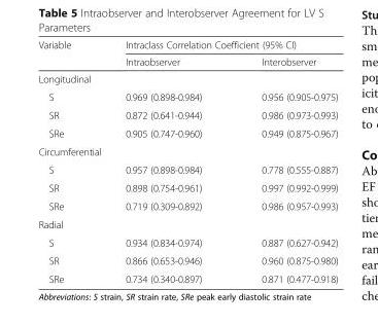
<table><thead><tr><td rowspan="2">Variable</td><td colspan="2">Intraclass Correlation Coefficient (95% CI)</td></tr><tr><td>Intraobserver</td><td>Interobserver</td></tr></thead><tbody><tr><td colspan="3">Longitudinal</td></tr><tr><td>S</td><td>0.969 (0.898-0.984)</td><td>0.956 (0.905-0.975)</td></tr><tr><td>SR</td><td>0.872 (0.641-0.944)</td><td>0.986 (0.973-0.993)</td></tr><tr><td>SRe</td><td>0.905 (0.747-0.960)</td><td>0.949 (0.875-0.967)</td></tr><tr><td colspan="3">Circumferential</td></tr><tr><td>S</td><td>0.957 (0.898-0.984)</td><td>0.778 (0.555-0.887)</td></tr><tr><td>SR</td><td>0.898 (0.754-0.961)</td><td>0.997 (0.992-0.999)</td></tr><tr><td>SRe</td><td>0.719 (0.309-0.892)</td><td>0.986 (0.957-0.993)</td></tr><tr><td colspan="3">Radial</td></tr><tr><td>S</td><td>0.934 (0.834-0.974)</td><td>0.887 (0.627-0.942)</td></tr><tr><td>SR</td><td>0.866 (0.653-0.946)</td><td>0.960 (0.875-0.980)</td></tr><tr><td>SRe</td><td>0.734 (0.340-0.897)</td><td>0.871 (0.477-0.918)</td></tr></tbody></table>